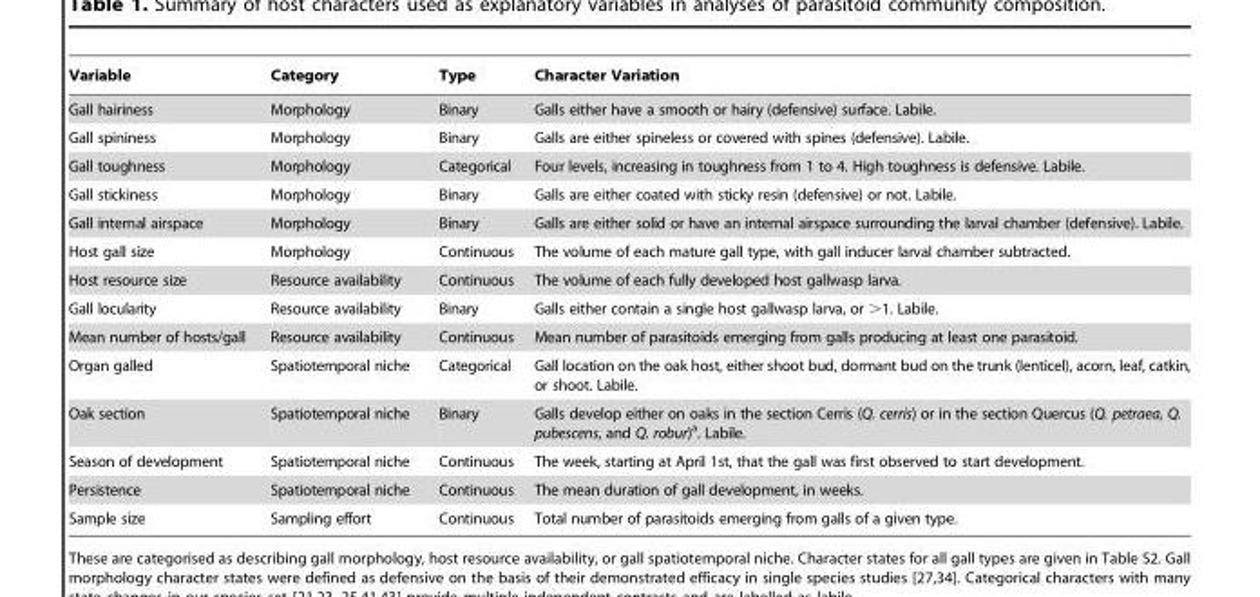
<table><thead><tr><td>Variable</td><td>Category</td><td>Type</td><td>Character Variation</td></tr></thead><tbody><tr><td>Gall hairiness</td><td>Morphology</td><td>Binary</td><td>Galls either have a smooth or hairy (defensive) surface. Labile.</td></tr><tr><td>Gall spininess</td><td>Morphology</td><td>Binary</td><td>Galls are either spineless or covered with spines (defensive). Labile.</td></tr><tr><td>Gall toughness</td><td>Morphology</td><td>Categorical</td><td>Four levels, increasing in toughness from 1 to 4. High toughness is defensive. Labile.</td></tr><tr><td>Gall stickiness</td><td>Morphology</td><td>Binary</td><td>Galls are either coated with sticky resin (defensive) or not. Labile.</td></tr><tr><td>Gall internal airspace</td><td>Morphology</td><td>Binary</td><td>Galls are either solid or have an internal airspace surrounding the larval chamber (defensive). Labile.</td></tr><tr><td>Host gall size</td><td>Morphology</td><td>Continuous</td><td>The volume of each mature gall type, with gall inducer larval chamber subtracted.</td></tr><tr><td>Host resource size</td><td>Resource availability</td><td>Continuous</td><td>The volume of each fully developed host gallwasp larva.</td></tr><tr><td>Gall locularity</td><td>Resource availability</td><td>Binary</td><td>Galls either contain a single host gallwasp larva, or &gt;1. Labile.</td></tr><tr><td>Mean number of hosts/gall</td><td>Resource availability</td><td>Continuous</td><td>Mean number of parasitoids emerging from galls producing at least one parasitoid.</td></tr><tr><td>Organ galled</td><td>Spatiotemporal niche</td><td>Categorical</td><td>Gall location on the oak host, either shoot bud, dormant bud on the trunk (lenticel), acorn, leaf, catkin, or shoot. Labile.</td></tr><tr><td>Oak section</td><td>Spatiotemporal niche</td><td>Binary</td><td>Galls develop either on oaks in the section Cerris (Q. cerris) or in the section Quercus (Q. petraea, Q. pubescens, and Q. robur)<sup>a</sup>. Labile.</td></tr><tr><td>Season of development</td><td>Spatiotemporal niche</td><td>Continuous</td><td>The week, starting at April 1st, that the gall was first observed to start development.</td></tr><tr><td>Persistence</td><td>Spatiotemporal niche</td><td>Continuous</td><td>The mean duration of gall development, in weeks.</td></tr><tr><td>Sample size</td><td>Sampling effort</td><td>Continuous</td><td>Total number of parasitoids emerging from galls of a given type.</td></tr></tbody></table>